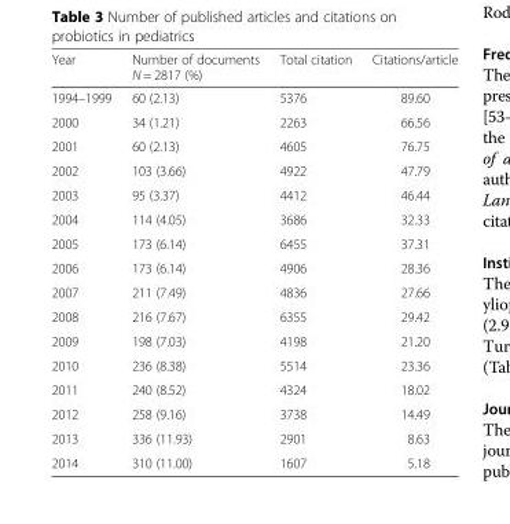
<table><thead><tr><td>Year</td><td>Number of documents N = 2817 (%)</td><td>Total citation</td><td>Citations/article</td></tr></thead><tbody><tr><td>1994–1999</td><td>60 (2.13)</td><td>5376</td><td>89.60</td></tr><tr><td>2000</td><td>34 (1.21)</td><td>2263</td><td>66.56</td></tr><tr><td>2001</td><td>60 (2.13)</td><td>4605</td><td>76.75</td></tr><tr><td>2002</td><td>103 (3.66)</td><td>4922</td><td>47.79</td></tr><tr><td>2003</td><td>95 (3.37)</td><td>4412</td><td>46.44</td></tr><tr><td>2004</td><td>114 (4.05)</td><td>3686</td><td>32.33</td></tr><tr><td>2005</td><td>173 (6.14)</td><td>6455</td><td>37.31</td></tr><tr><td>2006</td><td>173 (6.14)</td><td>4906</td><td>28.36</td></tr><tr><td>2007</td><td>211 (7.49)</td><td>4836</td><td>27.66</td></tr><tr><td>2008</td><td>216 (7.67)</td><td>6355</td><td>29.42</td></tr><tr><td>2009</td><td>198 (7.03)</td><td>4198</td><td>21.20</td></tr><tr><td>2010</td><td>236 (8.38)</td><td>5514</td><td>23.36</td></tr><tr><td>2011</td><td>240 (8.52)</td><td>4324</td><td>18.02</td></tr><tr><td>2012</td><td>258 (9.16)</td><td>3738</td><td>14.49</td></tr><tr><td>2013</td><td>336 (11.93)</td><td>2901</td><td>8.63</td></tr><tr><td>2014</td><td>310 (11.00)</td><td>1607</td><td>5.18</td></tr></tbody></table>